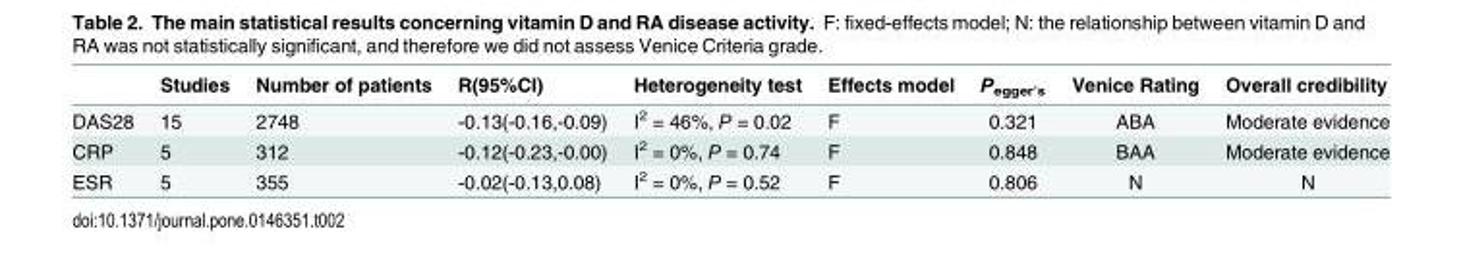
<table><thead><tr><td></td><td>Studies</td><td>Number of patients</td><td>R(95%CI)</td><td>Heterogeneity test</td><td>Effects model</td><td>P<sub>egger’s</sub></td><td>Venice Rating</td><td>Overall credibility</td></tr></thead><tbody><tr><td>DAS28</td><td>15</td><td>2748</td><td>-0.13(-0.16,-0.09)</td><td>I<sup>2</sup> = 46%, P = 0.02</td><td>F</td><td>0.321</td><td>ABA</td><td>Moderate evidence</td></tr><tr><td>CRP</td><td>5</td><td>312</td><td>-0.12(-0.23,-0.00)</td><td>I<sup>2</sup> = 0%, P = 0.74</td><td>F</td><td>0.848</td><td>BAA</td><td>Moderate evidence</td></tr><tr><td>ESR</td><td>5</td><td>355</td><td>-0.02(-0.13,0.08)</td><td>I<sup>2</sup> = 0%, P = 0.52</td><td>F</td><td>0.806</td><td>N</td><td>N</td></tr></tbody></table>